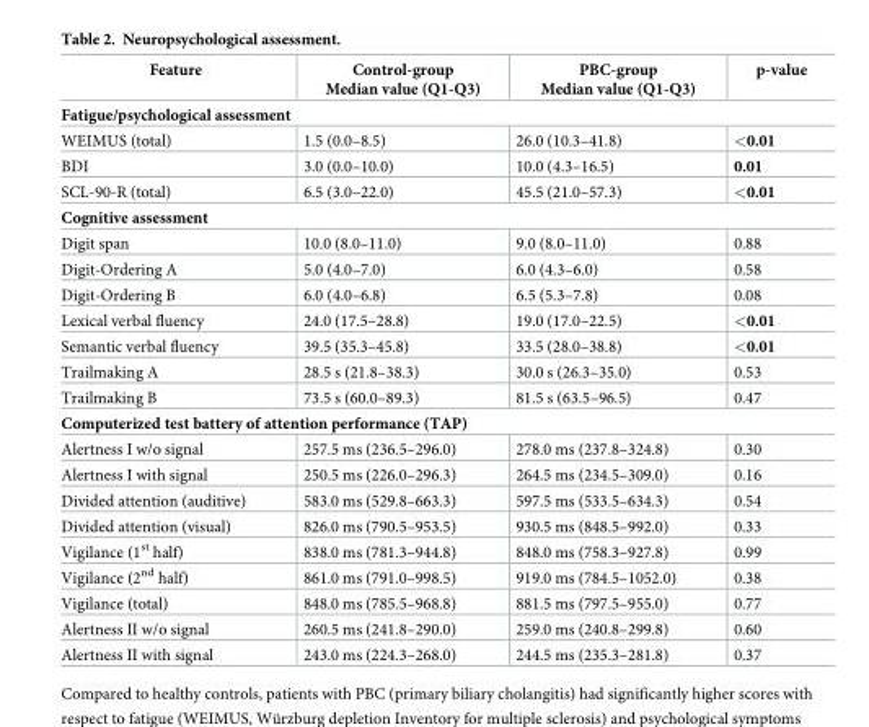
<table><thead><tr><td>Feature</td><td>Control-group Median value (Q1-Q3)</td><td>PBC-group Median value (Q1-Q3)</td><td>p-value</td></tr></thead><tbody><tr><td colspan="4">Fatigue/psychological assessment</td></tr><tr><td>WEIMUS (total)</td><td>1.5 (0.0–8.5)</td><td>26.0 (10.3–41.8)</td><td>&lt;0.01</td></tr><tr><td>BDI</td><td>3.0 (0.0–10.0)</td><td>10.0 (4.3–16.5)</td><td>0.01</td></tr><tr><td>SCL-90-R (total)</td><td>6.5 (3.0–22.0)</td><td>45.5 (21.0–57.3)</td><td>&lt;0.01</td></tr><tr><td colspan="4">Cognitive assessment</td></tr><tr><td>Digit span</td><td>10.0 (8.0–11.0)</td><td>9.0 (8.0–11.0)</td><td>0.88</td></tr><tr><td>Digit-Ordering A</td><td>5.0 (4.0–7.0)</td><td>6.0 (4.3–6.0)</td><td>0.58</td></tr><tr><td>Digit-Ordering B</td><td>6.0 (4.0–6.8)</td><td>6.5 (5.3–7.8)</td><td>0.08</td></tr><tr><td>Lexical verbal fluency</td><td>24.0 (17.5–28.8)</td><td>19.0 (17.0–22.5)</td><td>&lt;0.01</td></tr><tr><td>Semantic verbal fluency</td><td>39.5 (35.3–45.8)</td><td>33.5 (28.0–38.8)</td><td>&lt;0.01</td></tr><tr><td>Trailmaking A</td><td>28.5 s (21.8–38.3)</td><td>30.0 s (26.3–35.0)</td><td>0.53</td></tr><tr><td>Trailmaking B</td><td>73.5 s (60.0–89.3)</td><td>81.5 s (63.5–96.5)</td><td>0.47</td></tr><tr><td colspan="4">Computerized test battery of attention performance (TAP)</td></tr><tr><td>Alertness I w/o signal</td><td>257.5 ms (236.5–296.0)</td><td>278.0 ms (237.8–324.8)</td><td>0.30</td></tr><tr><td>Alertness I with signal</td><td>250.5 ms (226.0–296.3)</td><td>264.5 ms (234.5–309.0)</td><td>0.16</td></tr><tr><td>Divided attention (auditive)</td><td>583.0 ms (529.8–663.3)</td><td>597.5 ms (533.5–634.3)</td><td>0.54</td></tr><tr><td>Divided attention (visual)</td><td>826.0 ms (790.5–953.5)</td><td>930.5 ms (848.5–992.0)</td><td>0.33</td></tr><tr><td>Vigilance (1<sup>st</sup> half)</td><td>838.0 ms (781.3–944.8)</td><td>848.0 ms (758.3–927.8)</td><td>0.99</td></tr><tr><td>Vigilance (2<sup>nd</sup> half)</td><td>861.0 ms (791.0–998.5)</td><td>919.0 ms (784.5–1052.0)</td><td>0.38</td></tr><tr><td>Vigilance (total)</td><td>848.0 ms (785.5–968.8)</td><td>881.5 ms (797.5–955.0)</td><td>0.77</td></tr><tr><td>Alertness II w/o signal</td><td>260.5 ms (241.8–290.0)</td><td>259.0 ms (240.8–299.8)</td><td>0.60</td></tr><tr><td>Alertness II with signal</td><td>243.0 ms (224.3–268.0)</td><td>244.5 ms (235.3–281.8)</td><td>0.37</td></tr></tbody></table>